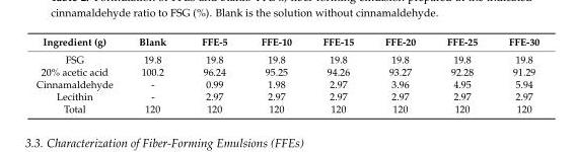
<table><thead><tr><td>Ingredient (g)</td><td>Blank</td><td>FFE-5</td><td>FFE-10</td><td>FFE-15</td><td>FFE-20</td><td>FFE-25</td><td>FFE-30</td></tr></thead><tbody><tr><td>FSG</td><td>19.8</td><td>19.8</td><td>19.8</td><td>19.8</td><td>19.8</td><td>19.8</td><td>19.8</td></tr><tr><td>20% acetic acid</td><td>100.2</td><td>96.24</td><td>95.25</td><td>94.26</td><td>93.27</td><td>92.28</td><td>91.29</td></tr><tr><td>Cinnamaldehyde</td><td>-</td><td>0.99</td><td>1.98</td><td>2.97</td><td>3.96</td><td>4.95</td><td>5.94</td></tr><tr><td>Lecithin</td><td>-</td><td>2.97</td><td>2.97</td><td>2.97</td><td>2.97</td><td>2.97</td><td>2.97</td></tr><tr><td>Total</td><td>120</td><td>120</td><td>120</td><td>120</td><td>120</td><td>120</td><td>120</td></tr></tbody></table>